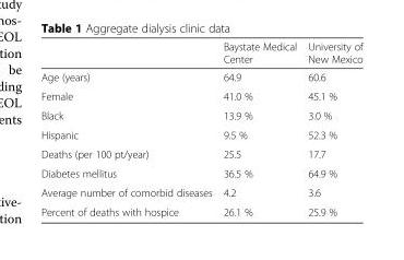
<table><thead><tr><td></td><td>Baystate Medical Center</td><td>University of New Mexico</td></tr></thead><tbody><tr><td>Age (years)</td><td>64.9</td><td>60.6</td></tr><tr><td>Female</td><td>41.0 %</td><td>45.1 %</td></tr><tr><td>Black</td><td>13.9 %</td><td>3.0 %</td></tr><tr><td>Hispanic</td><td>9.5 %</td><td>52.3 %</td></tr><tr><td>Deaths (per 100 pt/year)</td><td>25.5</td><td>17.7</td></tr><tr><td>Diabetes mellitus</td><td>36.5 %</td><td>64.9 %</td></tr><tr><td>Average number of comorbid diseases</td><td>4.2</td><td>3.6</td></tr><tr><td>Percent of deaths with hospice</td><td>26.1 %</td><td>25.9 %</td></tr></tbody></table>